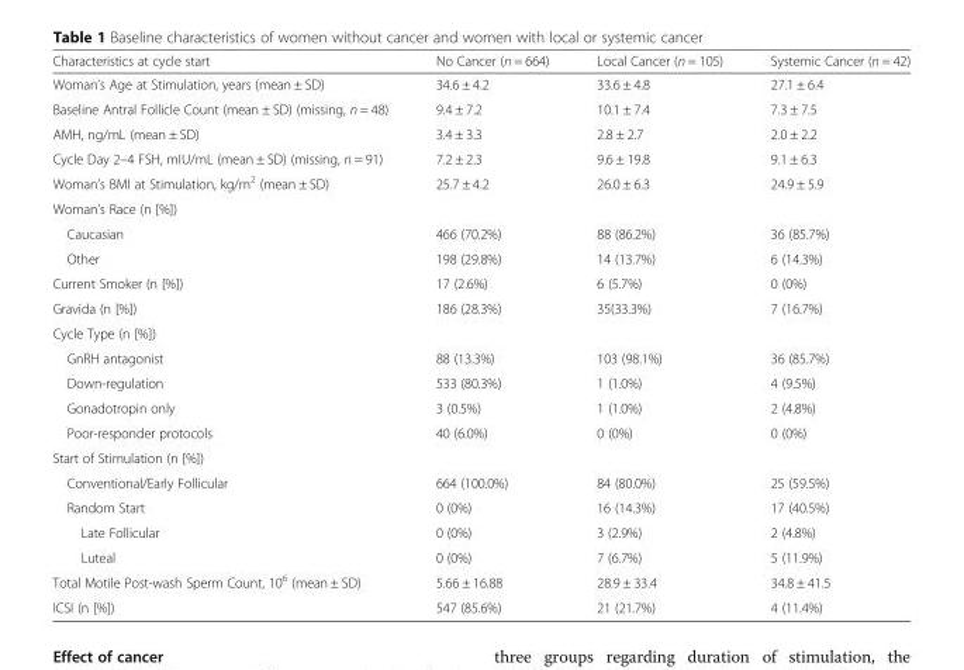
<table><thead><tr><td>Characteristics at cycle start</td><td>No Cancer (n = 664)</td><td>Local Cancer (n = 105)</td><td>Systemic Cancer (n = 42)</td></tr></thead><tbody><tr><td>Woman’s Age at Stimulation, years (mean ± SD)</td><td>34.6 ± 4.2</td><td>33.6 ± 4.8</td><td>27.1 ± 6.4</td></tr><tr><td>Baseline Antral Follicle Count (mean ± SD) (missing, n = 48)</td><td>9.4 ± 7.2</td><td>10.1 ± 7.4</td><td>7.3 ± 7.5</td></tr><tr><td>AMH, ng/mL (mean ± SD)</td><td>3.4 ± 3.3</td><td>2.8 ± 2.7</td><td>2.0 ± 2.2</td></tr><tr><td>Cycle Day 2–4 FSH, mIU/mL (mean ± SD) (missing, n = 91)</td><td>7.2 ± 2.3</td><td>9.6 ± 19.8</td><td>9.1 ± 6.3</td></tr><tr><td>Woman’s BMI at Stimulation, kg/m<sup>2</sup> (mean ± SD)</td><td>25.7 ± 4.2</td><td>26.0 ± 6.3</td><td>24.9 ± 5.9</td></tr><tr><td colspan="4">Woman’s Race (n [%])</td></tr><tr><td>Caucasian</td><td>466 (70.2%)</td><td>88 (86.2%)</td><td>36 (85.7%)</td></tr><tr><td>Other</td><td>198 (29.8%)</td><td>14 (13.7%)</td><td>6 (14.3%)</td></tr><tr><td>Current Smoker (n [%])</td><td>17 (2.6%)</td><td>6 (5.7%)</td><td>0 (0%)</td></tr><tr><td>Gravida (n [%])</td><td>186 (28.3%)</td><td>35(33.3%)</td><td>7 (16.7%)</td></tr><tr><td colspan="4">Cycle Type (n [%])</td></tr><tr><td>GnRH antagonist</td><td>88 (13.3%)</td><td>103 (98.1%)</td><td>36 (85.7%)</td></tr><tr><td>Down-regulation</td><td>533 (80.3%)</td><td>1 (1.0%)</td><td>4 (9.5%)</td></tr><tr><td>Gonadotropin only</td><td>3 (0.5%)</td><td>1 (1.0%)</td><td>2 (4.8%)</td></tr><tr><td>Poor-responder protocols</td><td>40 (6.0%)</td><td>0 (0%)</td><td>0 (0%)</td></tr><tr><td colspan="4">Start of Stimulation (n [%])</td></tr><tr><td>Conventional/Early Follicular</td><td>664 (100.0%)</td><td>84 (80.0%)</td><td>25 (59.5%)</td></tr><tr><td>Random Start</td><td>0 (0%)</td><td>16 (14.3%)</td><td>17 (40.5%)</td></tr><tr><td>Late Follicular</td><td>0 (0%)</td><td>3 (2.9%)</td><td>2 (4.8%)</td></tr><tr><td>Luteal</td><td>0 (0%)</td><td>7 (6.7%)</td><td>5 (11.9%)</td></tr><tr><td>Total Motile Post-wash Sperm Count, 10<sup>6</sup> (mean ± SD)</td><td>5.66 ± 16.88</td><td>28.9 ± 33.4</td><td>34.8 ± 41.5</td></tr><tr><td>ICSI (n [%])</td><td>547 (85.6%)</td><td>21 (21.7%)</td><td>4 (11.4%)</td></tr></tbody></table>